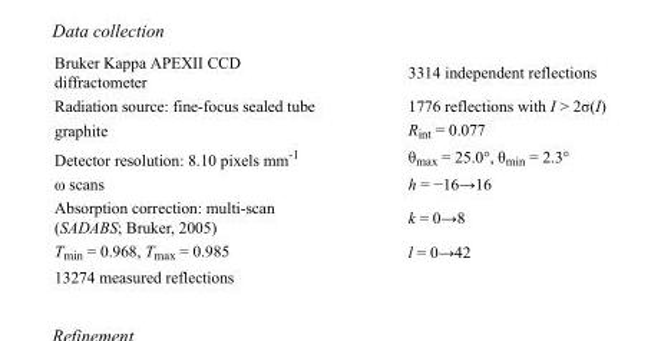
<table><tbody><tr><td>Bruker Kappa APEXII CCD diffractometer</td><td>3314 independent reflections</td></tr><tr><td>Radiation source: fine-focus sealed tube</td><td>1776 reflections with I &gt; 2σ(I)</td></tr><tr><td>graphite</td><td>R<sub>int</sub> = 0.077</td></tr><tr><td>Detector resolution: 8.10 pixels mm<sup>-1</sup></td><td>θ<sub>max</sub> = 25.0°, θ<sub>min</sub> = 2.3°</td></tr><tr><td>ω scans</td><td>h = −16→16</td></tr><tr><td>Absorption correction: multi-scan (SADABS; Bruker, 2005)</td><td>k = 0→8</td></tr><tr><td>T<sub>min</sub> = 0.968, T<sub>max</sub> = 0.985</td><td>l = 0→42</td></tr><tr><td>13274 measured reflections</td><td></td></tr></tbody></table>